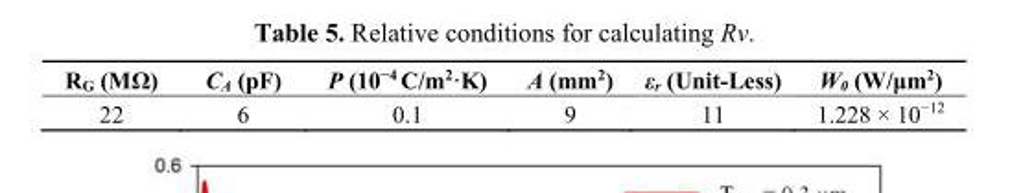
<table><thead><tr><td>R<sub>G</sub> (MΩ)</td><td>C<sub>A</sub> (pF)</td><td>P (10<sup>−4</sup> C/m<sup>2</sup>·K)</td><td>A (mm<sup>2</sup>)</td><td>ε<sub>r</sub> (Unit-Less)</td><td>W<sub>0</sub> (W/μm<sup>2</sup>)</td></tr></thead><tbody><tr><td>22</td><td>6</td><td>0.1</td><td>9</td><td>11</td><td>1.228 × 10<sup>−12</sup></td></tr></tbody></table>